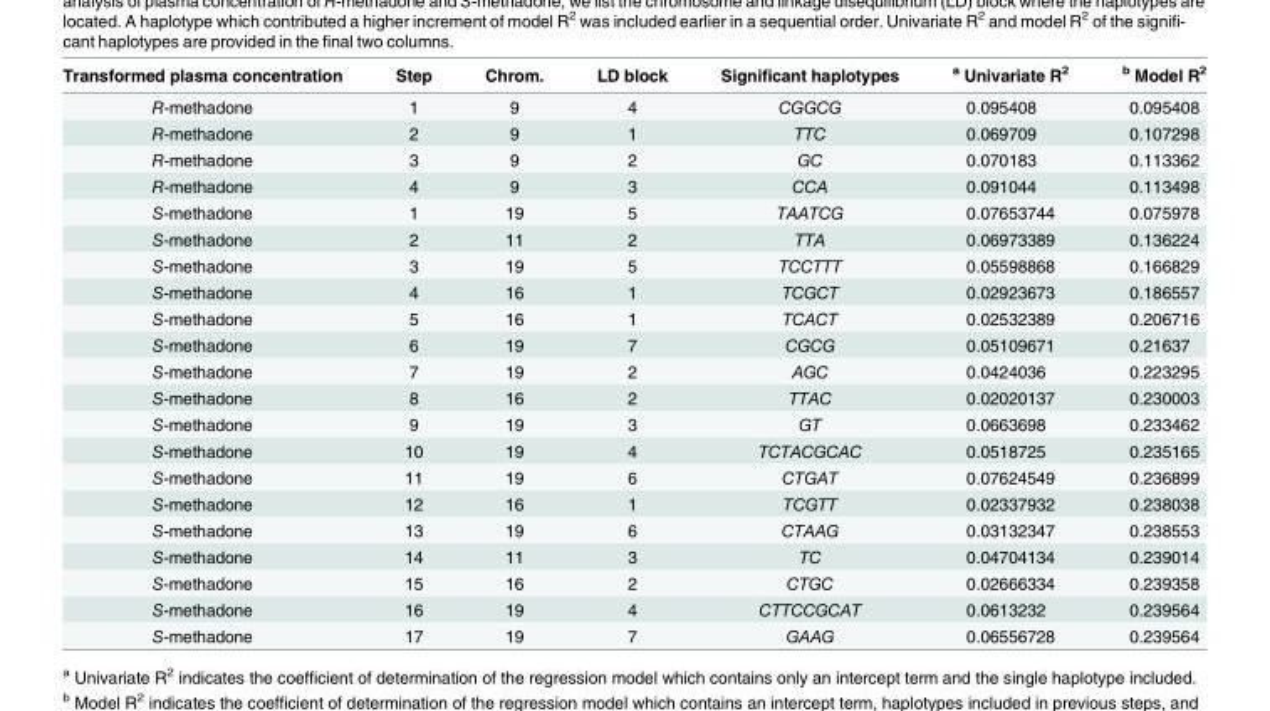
<table><thead><tr><td>Transformed plasma concentration</td><td>Step</td><td>Chrom.</td><td>LD block</td><td>Significant haplotypes</td><td><sup>a</sup> Univariate R<sup>2</sup></td><td><sup>b</sup> Model R<sup>2</sup></td></tr></thead><tbody><tr><td>R-methadone</td><td>1</td><td>9</td><td>4</td><td>CGGCG</td><td>0.095408</td><td>0.095408</td></tr><tr><td>R-methadone</td><td>2</td><td>9</td><td>1</td><td>TTC</td><td>0.069709</td><td>0.107298</td></tr><tr><td>R-methadone</td><td>3</td><td>9</td><td>2</td><td>GC</td><td>0.070183</td><td>0.113362</td></tr><tr><td>R-methadone</td><td>4</td><td>9</td><td>3</td><td>CCA</td><td>0.091044</td><td>0.113498</td></tr><tr><td>S-methadone</td><td>1</td><td>19</td><td>5</td><td>TAATCG</td><td>0.07653744</td><td>0.075978</td></tr><tr><td>S-methadone</td><td>2</td><td>11</td><td>2</td><td>TTA</td><td>0.06973389</td><td>0.136224</td></tr><tr><td>S-methadone</td><td>3</td><td>19</td><td>5</td><td>TCCTTT</td><td>0.05598868</td><td>0.166829</td></tr><tr><td>S-methadone</td><td>4</td><td>16</td><td>1</td><td>TCGCT</td><td>0.02923673</td><td>0.186557</td></tr><tr><td>S-methadone</td><td>5</td><td>16</td><td>1</td><td>TCACT</td><td>0.02532389</td><td>0.206716</td></tr><tr><td>S-methadone</td><td>6</td><td>19</td><td>7</td><td>CGCG</td><td>0.05109671</td><td>0.21637</td></tr><tr><td>S-methadone</td><td>7</td><td>19</td><td>2</td><td>AGC</td><td>0.0424036</td><td>0.223295</td></tr><tr><td>S-methadone</td><td>8</td><td>16</td><td>2</td><td>TTAC</td><td>0.02020137</td><td>0.230003</td></tr><tr><td>S-methadone</td><td>9</td><td>19</td><td>3</td><td>GT</td><td>0.0663698</td><td>0.233462</td></tr><tr><td>S-methadone</td><td>10</td><td>19</td><td>4</td><td>TCTACGCAC</td><td>0.0518725</td><td>0.235165</td></tr><tr><td>S-methadone</td><td>11</td><td>19</td><td>6</td><td>CTGAT</td><td>0.07624549</td><td>0.236899</td></tr><tr><td>S-methadone</td><td>12</td><td>16</td><td>1</td><td>TCGTT</td><td>0.02337932</td><td>0.238038</td></tr><tr><td>S-methadone</td><td>13</td><td>19</td><td>6</td><td>CTAAG</td><td>0.03132347</td><td>0.238553</td></tr><tr><td>S-methadone</td><td>14</td><td>11</td><td>3</td><td>TC</td><td>0.04704134</td><td>0.239014</td></tr><tr><td>S-methadone</td><td>15</td><td>16</td><td>2</td><td>CTGC</td><td>0.02666334</td><td>0.239358</td></tr><tr><td>S-methadone</td><td>16</td><td>19</td><td>4</td><td>CTTCCGCAT</td><td>0.0613232</td><td>0.239564</td></tr><tr><td>S-methadone</td><td>17</td><td>19</td><td>7</td><td>GAAG</td><td>0.06556728</td><td>0.239564</td></tr></tbody></table>